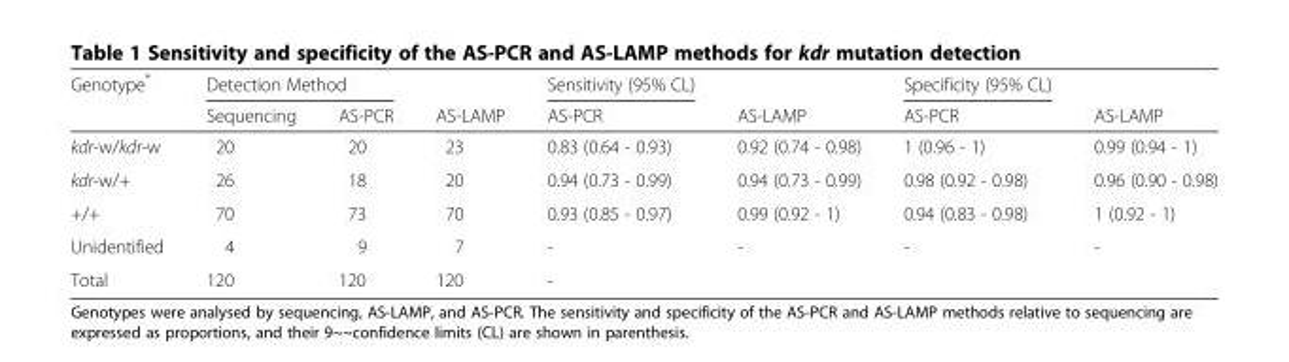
<table><thead><tr><td rowspan="2">Genotype*</td><td colspan="2">Detection Method</td><td rowspan="2">AS-LAMP</td><td rowspan="2">Sensitivity (95% CL) AS-PCR</td><td rowspan="2">AS-LAMP</td><td rowspan="2">Specificity (95% CL) AS-PCR</td><td rowspan="2">AS-LAMP</td></tr><tr><td>Sequencing</td><td>AS-PCR</td></tr></thead><tbody><tr><td>kdr-w/kdr-w</td><td>20</td><td>20</td><td>23</td><td>0.83 (0.64 - 0.93)</td><td>0.92 (0.74 - 0.98)</td><td>1 (0.96 - 1)</td><td>0.99 (0.94 - 1)</td></tr><tr><td>kdr-w/+</td><td>26</td><td>18</td><td>20</td><td>0.94 (0.73 - 0.99)</td><td>0.94 (0.73 - 0.99)</td><td>0.98 (0.92 - 0.98)</td><td>0.96 (0.90 - 0.98)</td></tr><tr><td>+/+</td><td>70</td><td>73</td><td>70</td><td>0.93 (0.85 - 0.97)</td><td>0.99 (0.92 - 1)</td><td>0.94 (0.83 - 0.98)</td><td>1 (0.92 - 1)</td></tr><tr><td>Unidentified</td><td>4</td><td>9</td><td>7</td><td>-</td><td>-</td><td>-</td><td>-</td></tr><tr><td>Total</td><td>120</td><td>120</td><td>120</td><td>-</td><td></td><td></td><td></td></tr></tbody></table>